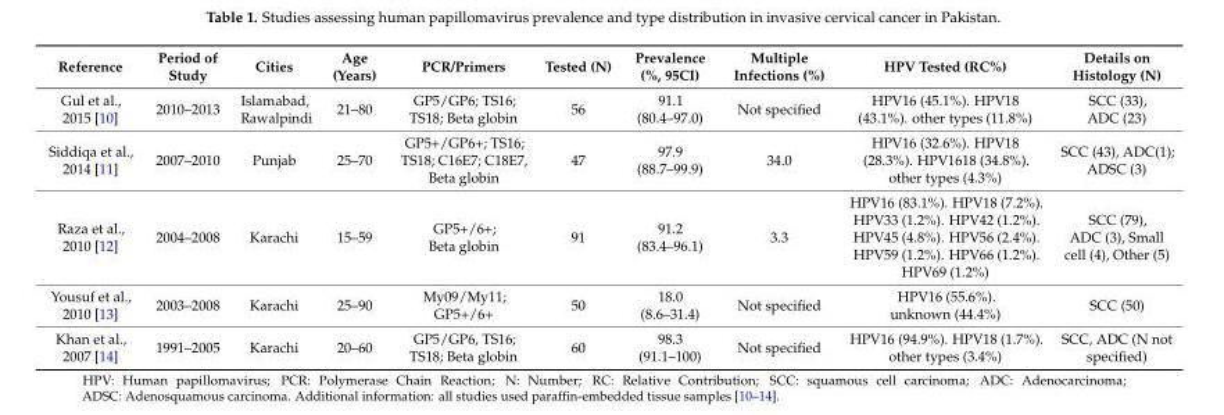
<table><thead><tr><td>Reference</td><td>Period of Study</td><td>Cities</td><td>Age (Years)</td><td>PCR/Primers</td><td>Tested (N)</td><td>Prevalence (%, 95CI)</td><td>Multiple Infections (%)</td><td>HPV Tested (RC%)</td><td>Details on Histology (N)</td></tr></thead><tbody><tr><td>Gul et al., 2015 [10]</td><td>2010–2013</td><td>Islamabad, Rawalpindi</td><td>21–80</td><td>GP5/GP6; TS16; TS18; Beta globin</td><td>56</td><td>91.1 (80.4–97.0)</td><td>Not specified</td><td>HPV16 (45.1%). HPV18 (43.1%). other types (11.8%)</td><td>SCC (33), ADC (23)</td></tr><tr><td>Siddiqa et al., 2014 [11]</td><td>2007–2010</td><td>Punjab</td><td>25–70</td><td>GP5+/GP6+; TS16; TS18; C16E7; C18E7, Beta globin</td><td>47</td><td>97.9 (88.7–99.9)</td><td>34.0</td><td>HPV16 (32.6%). HPV18 (28.3%). HPV1618 (34.8%). other types (4.3%)</td><td>SCC (43), ADC(1); ADSC (3)</td></tr><tr><td>Raza et al., 2010 [12]</td><td>2004–2008</td><td>Karachi</td><td>15–59</td><td>GP5+/6+; Beta globin</td><td>91</td><td>91.2 (83.4–96.1)</td><td>3.3</td><td>HPV16 (83.1%). HPV18 (7.2%). HPV33 (1.2%). HPV42 (1.2%). HPV45 (4.8%). HPV56 (2.4%). HPV59 (1.2%). HPV66 (1.2%). HPV69 (1.2%)</td><td>SCC (79), ADC (3), Small cell (4), Other (5)</td></tr><tr><td>Yousuf et al., 2010 [13]</td><td>2003–2008</td><td>Karachi</td><td>25–90</td><td>My09/My11; GP5+/6+</td><td>50</td><td>18.0 (8.6–31.4)</td><td>Not specified</td><td>HPV16 (55.6%). unknown (44.4%)</td><td>SCC (50)</td></tr><tr><td>Khan et al., 2007 [14]</td><td>1991–2005</td><td>Karachi</td><td>20–60</td><td>GP5/GP6, TS16; TS18; Beta globin</td><td>60</td><td>98.3 (91.1–100)</td><td>Not specified</td><td>HPV16 (94.9%). HPV18 (1.7%). other types (3.4%)</td><td>SCC, ADC (N not specified)</td></tr></tbody></table>